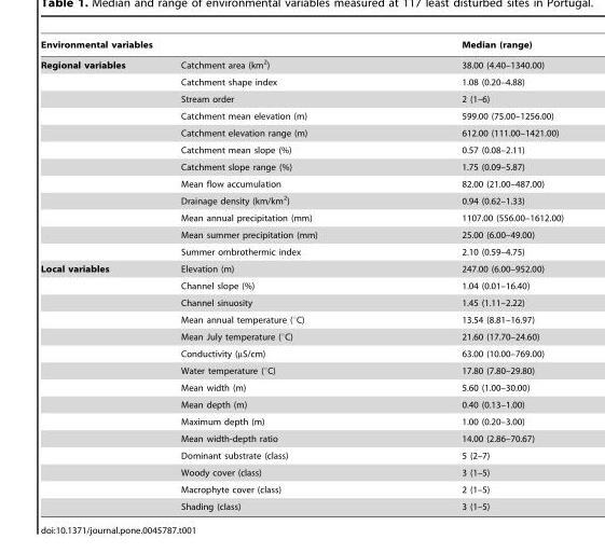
<table><thead><tr><td colspan="2">Environmental variables</td><td rowspan="2">Median (range) 38.00 (4.40–1340.00)</td></tr><tr><td>Regional variables</td><td>Catchment area (km<sup>2</sup>)</td></tr></thead><tbody><tr><td></td><td>Catchment shape index</td><td>1.08 (0.20–4.88)</td></tr><tr><td></td><td>Stream order</td><td>2 (1–6)</td></tr><tr><td></td><td>Catchment mean elevation (m)</td><td>599.00 (75.00–1256.00)</td></tr><tr><td></td><td>Catchment elevation range (m)</td><td>612.00 (111.00–1421.00)</td></tr><tr><td></td><td>Catchment mean slope (%)</td><td>0.57 (0.08–2.11)</td></tr><tr><td></td><td>Catchment slope range (%)</td><td>1.75 (0.09–5.87)</td></tr><tr><td></td><td>Mean flow accumulation</td><td>82.00 (21.00–487.00)</td></tr><tr><td></td><td>Drainage density (km/km<sup>2</sup>)</td><td>0.94 (0.62–1.33)</td></tr><tr><td></td><td>Mean annual precipitation (mm)</td><td>1107.00 (556.00–1612.00)</td></tr><tr><td></td><td>Mean summer precipitation (mm)</td><td>25.00 (6.00–49.00)</td></tr><tr><td></td><td>Summer ombrothermic index</td><td>2.10 (0.59–4.75)</td></tr><tr><td rowspan="15">Local variables</td><td>Elevation (m)</td><td>247.00 (6.00–952.00)</td></tr><tr><td>Channel slope (%)</td><td>1.04 (0.01–16.40)</td></tr><tr><td>Channel sinuosity</td><td>1.45 (1.11–2.22)</td></tr><tr><td>Mean annual temperature (°C)</td><td>13.54 (8.81–16.97)</td></tr><tr><td>Mean July temperature (°C)</td><td>21.60 (17.70–24.60)</td></tr><tr><td>Conductivity (µS/cm)</td><td>63.00 (10.00–769.00)</td></tr><tr><td>Water temperature (°C)</td><td>17.80 (7.80–29.80)</td></tr><tr><td>Mean width (m)</td><td>5.60 (1.00–30.00)</td></tr><tr><td>Mean depth (m)</td><td>0.40 (0.13–1.00)</td></tr><tr><td>Maximum depth (m)</td><td>1.00 (0.20–3.00)</td></tr><tr><td>Mean width-depth ratio</td><td>14.00 (2.86–70.67)</td></tr><tr><td>Dominant substrate (class)</td><td>5 (2–7)</td></tr><tr><td>Woody cover (class)</td><td>3 (1–5)</td></tr><tr><td>Macrophyte cover (class)</td><td>2 (1–5)</td></tr><tr><td>Shading (class)</td><td>3 (1–5)</td></tr></tbody></table>